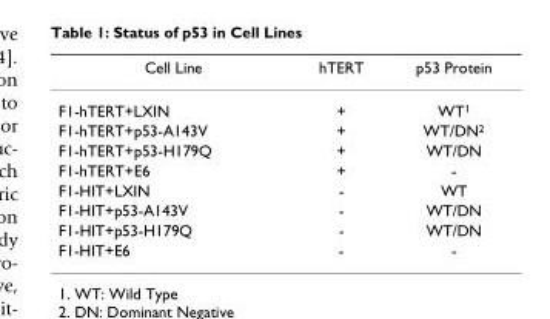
<table><thead><tr><td>Cell Line</td><td>hTERT</td><td>p53 Protein</td></tr></thead><tbody><tr><td>F1-hTERT+LXIN</td><td>+</td><td>WT<sup>1</sup></td></tr><tr><td>F1-hTERT+p53-A143V</td><td>+</td><td>WT/DN<sup>2</sup></td></tr><tr><td>F1-hTERT+p53-H179Q</td><td>+</td><td>WT/DN</td></tr><tr><td>F1-hTERT+E6</td><td>+</td><td>-</td></tr><tr><td>F1-HIT+LXIN</td><td>-</td><td>WT</td></tr><tr><td>F1-HIT+p53-A143V</td><td>-</td><td>WT/DN</td></tr><tr><td>F1-HIT+p53-H179Q</td><td>-</td><td>WT/DN</td></tr><tr><td>F1-HIT+E6</td><td>-</td><td>-</td></tr></tbody></table>